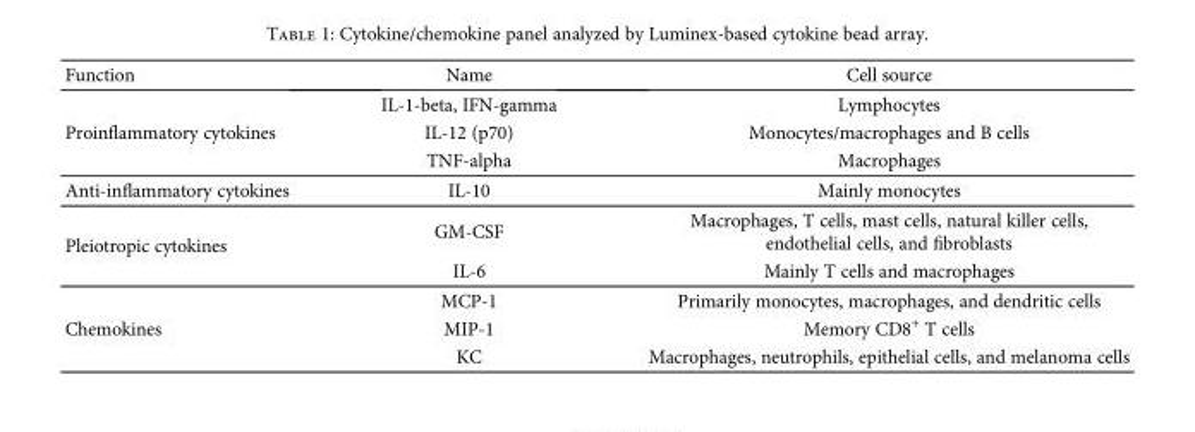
<table><thead><tr><td>Function</td><td>Name</td><td>Cell source</td></tr></thead><tbody><tr><td rowspan="3">Proinflammatory cytokines</td><td>IL-1-beta, IFN-gamma</td><td>Lymphocytes</td></tr><tr><td>IL-12 (p70)</td><td>Monocytes/macrophages and B cells</td></tr><tr><td>TNF-alpha</td><td>Macrophages</td></tr><tr><td>Anti-inflammatory cytokines</td><td>IL-10</td><td>Mainly monocytes</td></tr><tr><td rowspan="2">Pleiotropic cytokines</td><td>GM-CSF</td><td>Macrophages, T cells, mast cells, natural killer cells, endothelial cells, and fibroblasts</td></tr><tr><td>IL-6</td><td>Mainly T cells and macrophages</td></tr><tr><td rowspan="3">Chemokines</td><td>MCP-1</td><td>Primarily monocytes, macrophages, and dendritic cells</td></tr><tr><td>MIP-1</td><td>Memory CD8<sup>+</sup> T cells</td></tr><tr><td>KC</td><td>Macrophages, neutrophils, epithelial cells, and melanoma cells</td></tr></tbody></table>